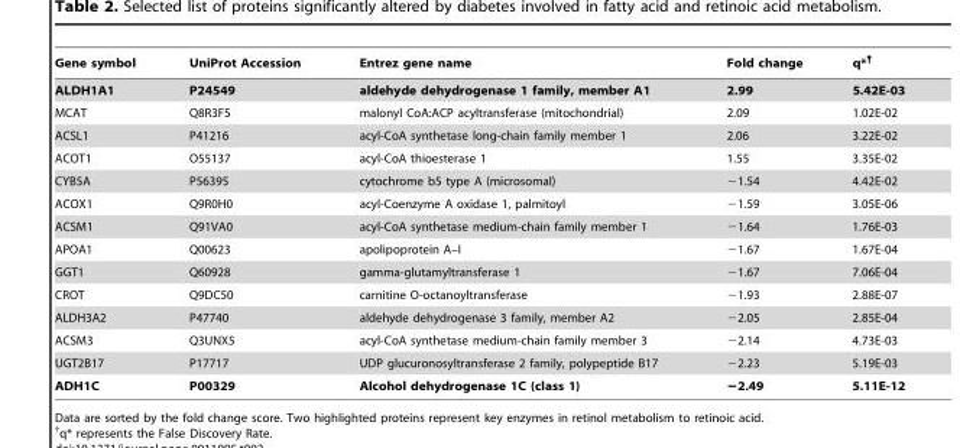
<table><thead><tr><td>Gene symbol</td><td>UniProt Accession</td><td>Entrez gene name</td><td>Fold change</td><td>q*†</td></tr></thead><tbody><tr><td>ALDH1A1</td><td>P24549</td><td>aldehyde dehydrogenase 1 family, member A1</td><td>2.99</td><td>5.42E-03</td></tr><tr><td>MCAT</td><td>Q8R3F5</td><td>malonyl CoA:ACP acyltransferase (mitochondrial)</td><td>2.09</td><td>1.02E-02</td></tr><tr><td>ACSL1</td><td>P41216</td><td>acyl-CoA synthetase long-chain family member 1</td><td>2.06</td><td>3.22E-02</td></tr><tr><td>ACOT1</td><td>O55137</td><td>acyl-CoA thioesterase 1</td><td>1.55</td><td>3.35E-02</td></tr><tr><td>CYB5A</td><td>P56395</td><td>cytochrome b5 type A (microsomal)</td><td>−1.54</td><td>4.42E-02</td></tr><tr><td>ACOX1</td><td>Q9R0H0</td><td>acyl-Coenzyme A oxidase 1, palmitoyl</td><td>−1.59</td><td>3.05E-06</td></tr><tr><td>ACSM1</td><td>Q91VA0</td><td>acyl-CoA synthetase medium-chain family member 1</td><td>−1.64</td><td>1.76E-03</td></tr><tr><td>APOA1</td><td>Q00623</td><td>apolipoprotein A–I</td><td>−1.67</td><td>1.67E-04</td></tr><tr><td>GGT1</td><td>Q60928</td><td>gamma-glutamyltransferase 1</td><td>−1.67</td><td>7.06E-04</td></tr><tr><td>CROT</td><td>Q9DC50</td><td>carnitine O-octanoyltransferase</td><td>−1.93</td><td>2.88E-07</td></tr><tr><td>ALDH3A2</td><td>P47740</td><td>aldehyde dehydrogenase 3 family, member A2</td><td>−2.05</td><td>2.85E-04</td></tr><tr><td>ACSM3</td><td>Q3UNX5</td><td>acyl-CoA synthetase medium-chain family member 3</td><td>−2.14</td><td>4.73E-03</td></tr><tr><td>UGT2B17</td><td>P17717</td><td>UDP glucuronosyltransferase 2 family, polypeptide B17</td><td>−2.23</td><td>5.19E-03</td></tr><tr><td>ADH1C</td><td>P00329</td><td>Alcohol dehydrogenase 1C (class 1)</td><td>−2.49</td><td>5.11E-12</td></tr></tbody></table>